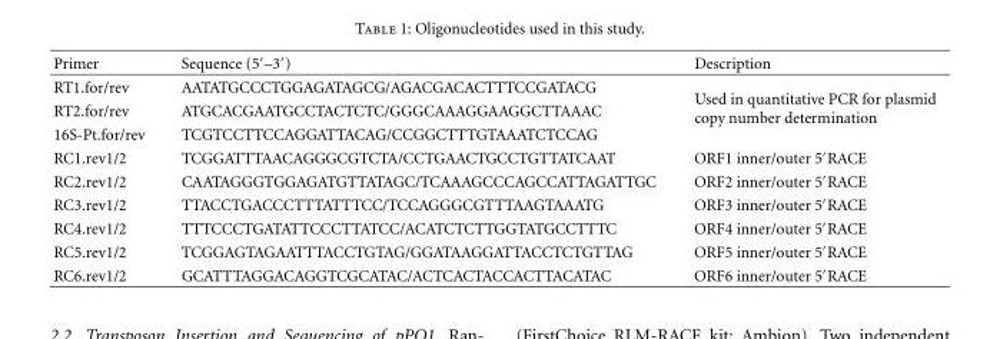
<table><thead><tr><td>Primer</td><td>Sequence (5′–3′)</td><td>Description</td></tr></thead><tbody><tr><td>RT1.for/rev</td><td>AATATGCCCTGGAGATAGCG/AGACGACACTTTCCGATACG</td><td rowspan="3">Used in quantitative PCR for plasmid copy number determination</td></tr><tr><td>RT2.for/rev</td><td>ATGCACGAATGCCTACTCTC/GGGCAAAGGAAGGCTTAAAC</td></tr><tr><td>16S-Pt.for/rev</td><td>TCGTCCTTCCAGGATTACAG/CCGGCTTTGTAAATCTCCAG</td></tr><tr><td>RC1.rev1/2</td><td>TCGGATTTAACAGGGCGTCTA/CCTGAACTGCCTGTTATCAAT</td><td>ORF1 inner/outer 5′RACE</td></tr><tr><td>RC2.rev1/2</td><td>CAATAGGGTGGAGATGTTATAGC/TCAAAGCCCAGCCATTAGATTGC</td><td>ORF2 inner/outer 5′RACE</td></tr><tr><td>RC3.rev1/2</td><td>TTACCTGACCCTTTATTTCC/TCCAGGGCGTTTAAGTAAATG</td><td>ORF3 inner/outer 5′RACE</td></tr><tr><td>RC4.rev1/2</td><td>TTTCCCTGATATTCCCTTATCC/ACATCTCTTGGTATGCCTTTC</td><td>ORF4 inner/outer 5′RACE</td></tr><tr><td>RC5.rev1/2</td><td>TCGGAGTAGAATTTACCTGTAG/GGATAAGGATTACCTCTGTTAG</td><td>ORF5 inner/outer 5′RACE</td></tr><tr><td>RC6.rev1/2</td><td>GCATTTAGGACAGGTCGCATAC/ACTCACTACCACTTACATAC</td><td>ORF6 inner/outer 5′RACE</td></tr></tbody></table>